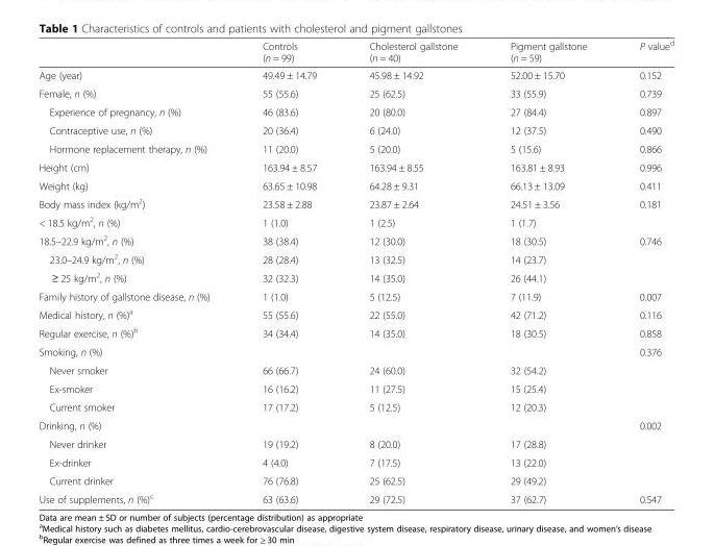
<table><thead><tr><td></td><td>Controls (n = 99)</td><td>Cholesterol gallstone (n = 40)</td><td>Pigment gallstone (n = 59)</td><td>P value<sup>d</sup></td></tr></thead><tbody><tr><td>Age (year)</td><td>49.49 ± 14.79</td><td>45.98 ± 14.92</td><td>52.00 ± 15.70</td><td>0.152</td></tr><tr><td>Female, n (%)</td><td>55 (55.6)</td><td>25 (62.5)</td><td>33 (55.9)</td><td>0.739</td></tr><tr><td>Experience of pregnancy, n (%)</td><td>46 (83.6)</td><td>20 (80.0)</td><td>27 (84.4)</td><td>0.897</td></tr><tr><td>Contraceptive use, n (%)</td><td>20 (36.4)</td><td>6 (24.0)</td><td>12 (37.5)</td><td>0.490</td></tr><tr><td>Hormone replacement therapy, n (%)</td><td>11 (20.0)</td><td>5 (20.0)</td><td>5 (15.6)</td><td>0.866</td></tr><tr><td>Height (cm)</td><td>163.94 ± 8.57</td><td>163.94 ± 8.55</td><td>163.81 ± 8.93</td><td>0.996</td></tr><tr><td>Weight (kg)</td><td>63.65 ± 10.98</td><td>64.28 ± 9.31</td><td>66.13 ± 13.09</td><td>0.411</td></tr><tr><td>Body mass index (kg/m<sup>2</sup>)</td><td>23.58 ± 2.88</td><td>23.87 ± 2.64</td><td>24.51 ± 3.56</td><td>0.181</td></tr><tr><td>&lt; 18.5 kg/m<sup>2</sup>, n (%)</td><td>1 (1.0)</td><td>1 (2.5)</td><td>1 (1.7)</td><td></td></tr><tr><td>18.5–22.9 kg/m<sup>2</sup>, n (%)</td><td>38 (38.4)</td><td>12 (30.0)</td><td>18 (30.5)</td><td rowspan="2">0.746</td></tr><tr><td>23.0–24.9 kg/m<sup>2</sup>, n (%)</td><td>28 (28.4)</td><td>13 (32.5)</td><td>14 (23.7)</td></tr><tr><td>≥ 25 kg/m<sup>2</sup>, n (%)</td><td>32 (32.3)</td><td>14 (35.0)</td><td>26 (44.1)</td><td></td></tr><tr><td>Family history of gallstone disease, n (%)</td><td>1 (1.0)</td><td>5 (12.5)</td><td>7 (11.9)</td><td>0.007</td></tr><tr><td>Medical history, n (%)<sup>a</sup></td><td>55 (55.6)</td><td>22 (55.0)</td><td>42 (71.2)</td><td>0.116</td></tr><tr><td>Regular exercise, n (%)<sup>b</sup></td><td>34 (34.4)</td><td>14 (35.0)</td><td>18 (30.5)</td><td>0.858</td></tr><tr><td>Smoking, n (%)</td><td></td><td></td><td></td><td>0.376</td></tr><tr><td>Never smoker</td><td>66 (66.7)</td><td>24 (60.0)</td><td>32 (54.2)</td><td></td></tr><tr><td>Ex-smoker</td><td>16 (16.2)</td><td>11 (27.5)</td><td>15 (25.4)</td><td></td></tr><tr><td>Current smoker</td><td>17 (17.2)</td><td>5 (12.5)</td><td>12 (20.3)</td><td></td></tr><tr><td>Drinking, n (%)</td><td></td><td></td><td></td><td>0.002</td></tr><tr><td>Never drinker</td><td>19 (19.2)</td><td>8 (20.0)</td><td>17 (28.8)</td><td></td></tr><tr><td>Ex-drinker</td><td>4 (4.0)</td><td>7 (17.5)</td><td>13 (22.0)</td><td></td></tr><tr><td>Current drinker</td><td>76 (76.8)</td><td>25 (62.5)</td><td>29 (49.2)</td><td></td></tr><tr><td>Use of supplements, n (%)<sup>c</sup></td><td>63 (63.6)</td><td>29 (72.5)</td><td>37 (62.7)</td><td>0.547</td></tr></tbody></table>